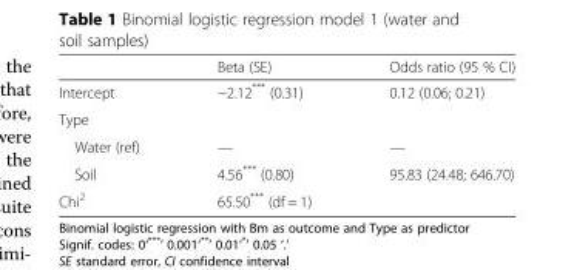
<table><thead><tr><td></td><td>Beta (SE)</td><td>Odds ratio (95 % CI)</td></tr></thead><tbody><tr><td>Intercept</td><td>−2.12*** (0.31)</td><td>0.12 (0.06; 0.21)</td></tr><tr><td colspan="3">Type</td></tr><tr><td>Water (ref)</td><td>—</td><td>—</td></tr><tr><td>Soil</td><td>4.56*** (0.80)</td><td>95.83 (24.48; 646.70)</td></tr><tr><td>Chi<sup>2</sup></td><td>65.50*** (df = 1)</td><td></td></tr></tbody></table>